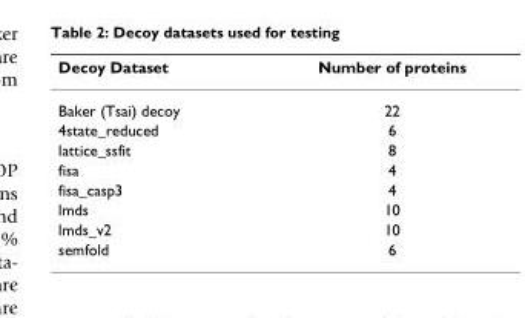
<table><thead><tr><td>Decoy Dataset</td><td>Number of proteins</td></tr></thead><tbody><tr><td>Baker (Tsai) decoy</td><td>22</td></tr><tr><td>4state_reduced</td><td>6</td></tr><tr><td>lattice_ssfit</td><td>8</td></tr><tr><td>fisa</td><td>4</td></tr><tr><td>fisa_casp3</td><td>4</td></tr><tr><td>lmds</td><td>10</td></tr><tr><td>lmds_v2</td><td>10</td></tr><tr><td>semfold</td><td>6</td></tr></tbody></table>